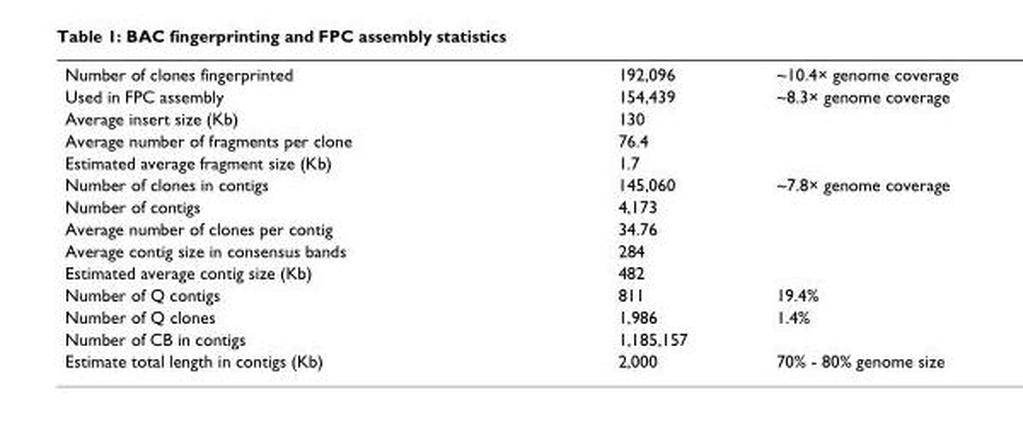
<table><tbody><tr><td>Number of clones fingerprinted</td><td>192,096</td><td>~10.4× genome coverage</td></tr><tr><td>Used in FPC assembly</td><td>154,439</td><td>~8.3× genome coverage</td></tr><tr><td>Average insert size (Kb)</td><td>130</td><td></td></tr><tr><td>Average number of fragments per clone</td><td>76.4</td><td></td></tr><tr><td>Estimated average fragment size (Kb)</td><td>1.7</td><td></td></tr><tr><td>Number of clones in contigs</td><td>145,060</td><td>~7.8× genome coverage</td></tr><tr><td>Number of contigs</td><td>4,173</td><td></td></tr><tr><td>Average number of clones per contig</td><td>34.76</td><td></td></tr><tr><td>Average contig size in consensus bands</td><td>284</td><td></td></tr><tr><td>Estimated average contig size (Kb)</td><td>482</td><td></td></tr><tr><td>Number of Q contigs</td><td>811</td><td>19.4%</td></tr><tr><td>Number of Q clones</td><td>1,986</td><td>1.4%</td></tr><tr><td>Number of CB in contigs</td><td>1,185,157</td><td></td></tr><tr><td>Estimate total length in contigs (Kb)</td><td>2,000</td><td>70% - 80% genome size</td></tr></tbody></table>